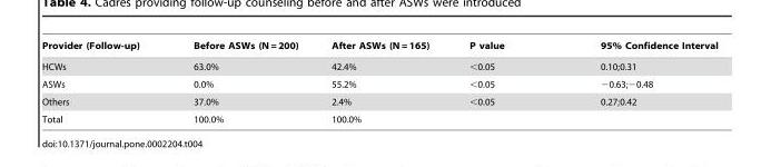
<table><thead><tr><td>Provider (Follow-up)</td><td>Before ASWs (N = 200)</td><td>After ASWs (N = 165)</td><td>P value</td><td>95% Confidence Interval</td></tr></thead><tbody><tr><td>HCWs</td><td>63.0%</td><td>42.4%</td><td>&lt;0.05</td><td>0.10;0.31</td></tr><tr><td>ASWs</td><td>0.0%</td><td>55.2%</td><td>&lt;0.05</td><td>−0.63;−0.48</td></tr><tr><td>Others</td><td>37.0%</td><td>2.4%</td><td>&lt;0.05</td><td>0.27;0.42</td></tr><tr><td>Total</td><td>100.0%</td><td>100.0%</td><td></td><td></td></tr></tbody></table>